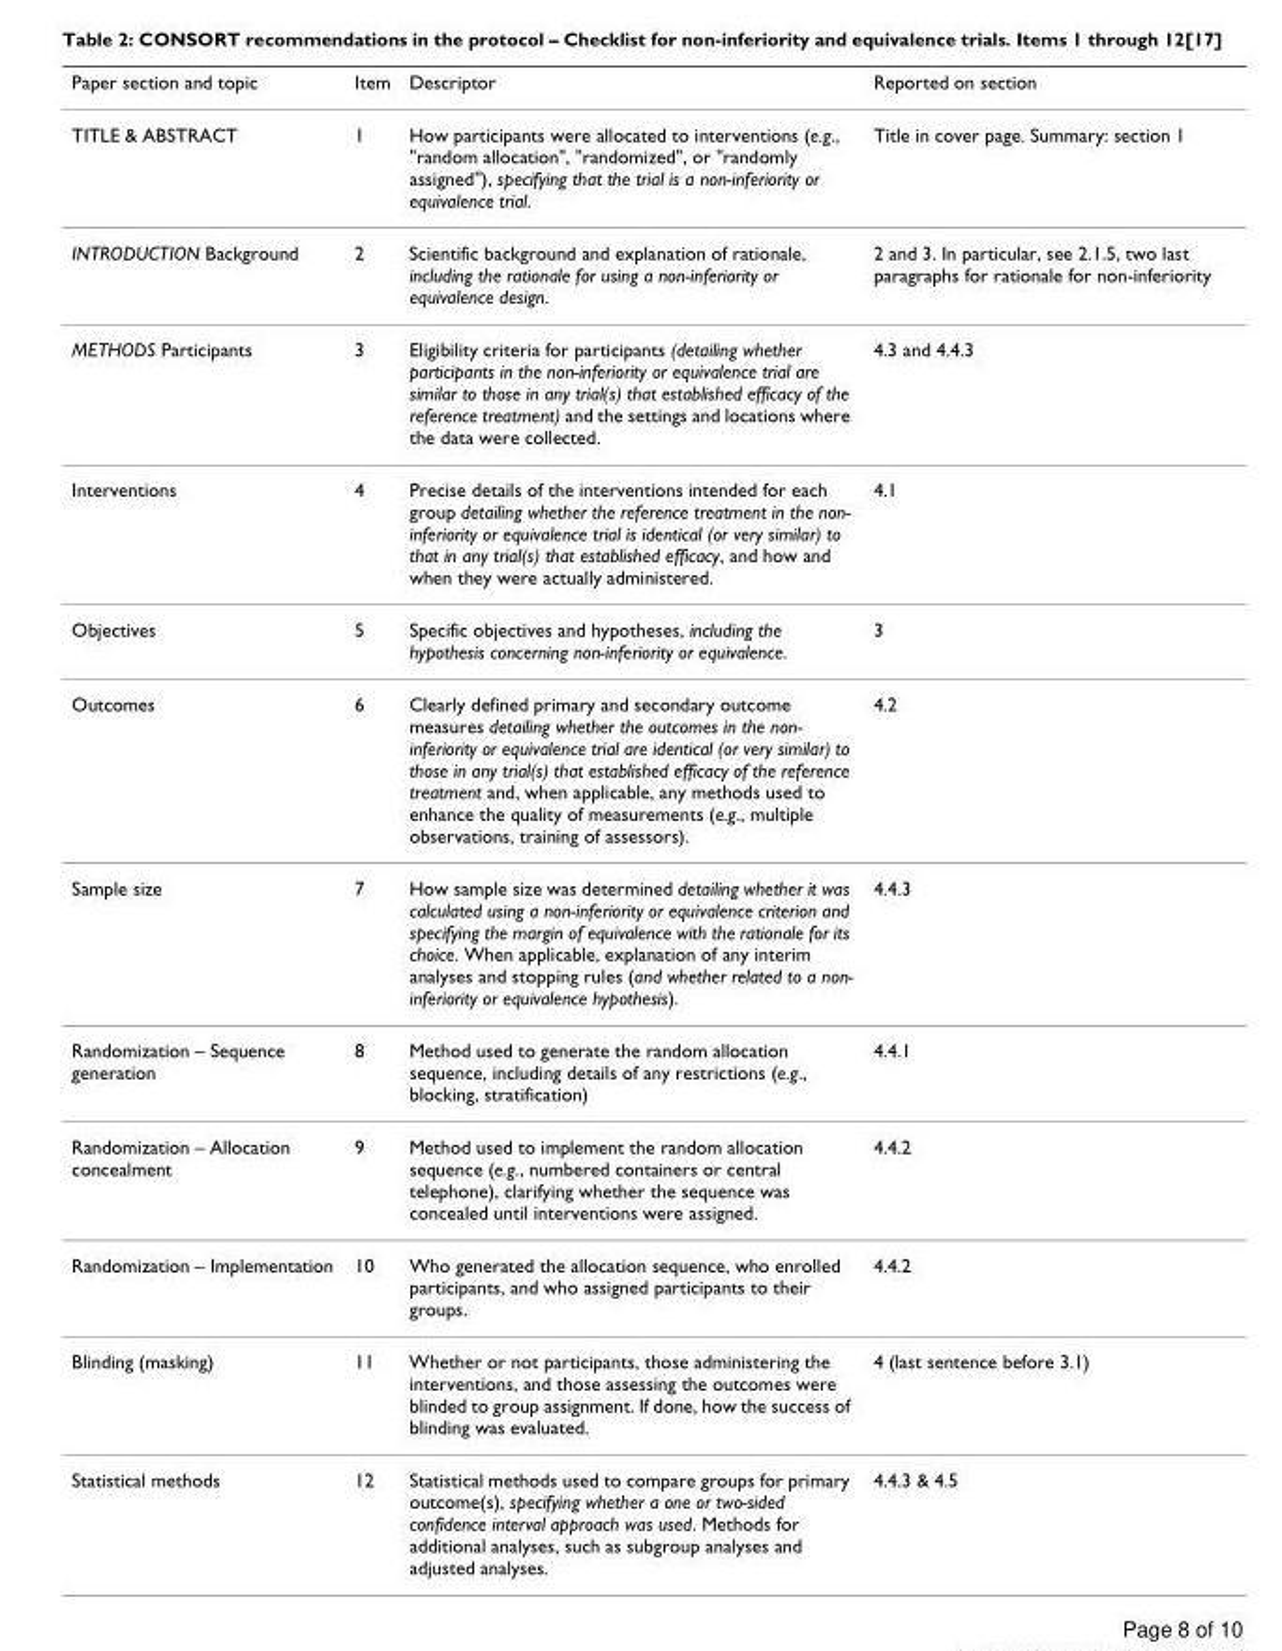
<table><thead><tr><td>Paper section and topic</td><td>Item</td><td>Descriptor</td><td>Reported on section</td></tr></thead><tbody><tr><td>TITLE &amp; ABSTRACT</td><td>1</td><td>How participants were allocated to interventions (e.g., &quot;random allocation&quot;, &quot;randomized&quot;, or &quot;randomly assigned&quot;), specifying that the trial is a non-inferiority or equivalence trial.</td><td>Title in cover page. Summary: section 1</td></tr><tr><td>INTRODUCTION Background</td><td>2</td><td>Scientific background and explanation of rationale, including the rationale for using a non-inferiority or equivalence design.</td><td>2 and 3. In particular, see 2.1.5, two last paragraphs for rationale for non-inferiority</td></tr><tr><td>METHODS Participants</td><td>3</td><td>Eligibility criteria for participants (detailing whether participants in the non-inferiority or equivalence trial are similar to those in any trial(s) that established efficacy of the reference treatment) and the settings and locations where the data were collected.</td><td>4.3 and 4.4.3</td></tr><tr><td>Interventions</td><td>4</td><td>Precise details of the interventions intended for each group detailing whether the reference treatment in the non- inferiority or equivalence trial is identical (or very similar) to that in any trial(s) that established efficacy, and how and when they were actually administered.</td><td>4.1</td></tr><tr><td>Objectives</td><td>5</td><td>Specific objectives and hypotheses, including the hypothesis concerning non-inferiority or equivalence.</td><td>3</td></tr><tr><td>Outcomes</td><td>6</td><td>Clearly defined primary and secondary outcome measures detailing whether the outcomes in the non- inferiority or equivalence trial are identical (or very similar) to those in any trial(s) that established efficacy of the reference treatment and, when applicable, any methods used to enhance the quality of measurements (e.g., multiple observations, training of assessors).</td><td>4.2</td></tr><tr><td>Sample size</td><td>7</td><td>How sample size was determined detailing whether it was calculated using a non-inferiority or equivalence criterion and specifying the margin of equivalence with the rationale for its choice. When applicable, explanation of any interim analyses and stopping rules (and whether related to a non- inferiority or equivalence hypothesis).</td><td>4.4.3</td></tr><tr><td>Randomization – Sequence generation</td><td>8</td><td>Method used to generate the random allocation sequence, including details of any restrictions (e.g., blocking, stratification)</td><td>4.4.1</td></tr><tr><td>Randomization – Allocation concealment</td><td>9</td><td>Method used to implement the random allocation sequence (e.g., numbered containers or central telephone), clarifying whether the sequence was concealed until interventions were assigned.</td><td>4.4.2</td></tr><tr><td>Randomization – Implementation</td><td>10</td><td>Who generated the allocation sequence, who enrolled participants, and who assigned participants to their groups.</td><td>4.4.2</td></tr><tr><td>Blinding (masking)</td><td>11</td><td>Whether or not participants, those administering the interventions, and those assessing the outcomes were blinded to group assignment. If done, how the success of blinding was evaluated.</td><td>4 (last sentence before 3.1)</td></tr><tr><td>Statistical methods</td><td>12</td><td>Statistical methods used to compare groups for primary outcome(s), specifying whether a one or two-sided confidence interval approach was used. Methods for additional analyses, such as subgroup analyses and adjusted analyses.</td><td>4.4.3 &amp; 4.5</td></tr></tbody></table>